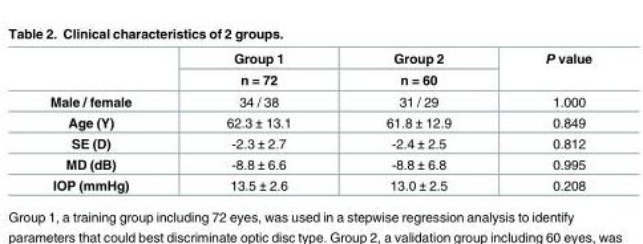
<table><thead><tr><td rowspan="2"></td><td rowspan="2">Group 1 n = 72</td><td rowspan="2">Group 2 n = 60</td><td rowspan="2">P value</td></tr><tr></tr></thead><tbody><tr><td>Male / female</td><td>34 / 38</td><td>31 / 29</td><td>1.000</td></tr><tr><td>Age (Y)</td><td>62.3 ± 13.1</td><td>61.8 ± 12.9</td><td>0.849</td></tr><tr><td>SE (D)</td><td>-2.3 ± 2.7</td><td>-2.4 ± 2.5</td><td>0.812</td></tr><tr><td>MD (dB)</td><td>-8.8 ± 6.6</td><td>-8.8 ± 6.8</td><td>0.995</td></tr><tr><td>IOP (mmHg)</td><td>13.5 ± 2.6</td><td>13.0 ± 2.5</td><td>0.208</td></tr></tbody></table>